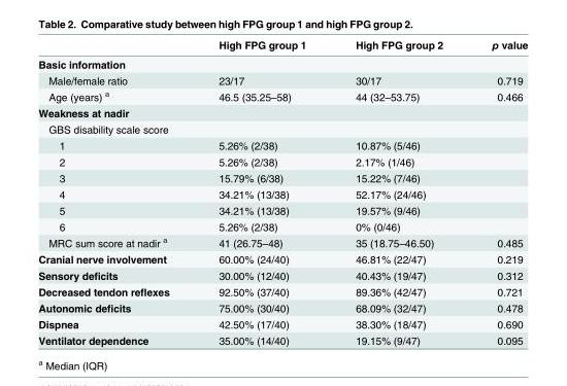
<table><thead><tr><td></td><td>High FPG group 1</td><td>High FPG group 2</td><td>p value</td></tr></thead><tbody><tr><td colspan="4">Basic information</td></tr><tr><td>Male/female ratio</td><td>23/17</td><td>30/17</td><td>0.719</td></tr><tr><td>Age (years) <sup>a</sup></td><td>46.5 (35.25–58)</td><td>44 (32–53.75)</td><td>0.466</td></tr><tr><td colspan="4">Weakness at nadir</td></tr><tr><td colspan="4">GBS disability scale score</td></tr><tr><td>1</td><td>5.26% (2/38)</td><td>10.87% (5/46)</td><td></td></tr><tr><td>2</td><td>5.26% (2/38)</td><td>2.17% (1/46)</td><td></td></tr><tr><td>3</td><td>15.79% (6/38)</td><td>15.22% (7/46)</td><td></td></tr><tr><td>4</td><td>34.21% (13/38)</td><td>52.17% (24/46)</td><td></td></tr><tr><td>5</td><td>34.21% (13/38)</td><td>19.57% (9/46)</td><td></td></tr><tr><td>6</td><td>5.26% (2/38)</td><td>0% (0/46)</td><td></td></tr><tr><td>MRC sum score at nadir <sup>a</sup></td><td>41 (26.75–48)</td><td>35 (18.75–46.50)</td><td>0.485</td></tr><tr><td>Cranial nerve involvement</td><td>60.00% (24/40)</td><td>46.81% (22/47)</td><td>0.219</td></tr><tr><td>Sensory deficits</td><td>30.00% (12/40)</td><td>40.43% (19/47)</td><td>0.312</td></tr><tr><td>Decreased tendon reflexes</td><td>92.50% (37/40)</td><td>89.36% (42/47)</td><td>0.721</td></tr><tr><td>Autonomic deficits</td><td>75.00% (30/40)</td><td>68.09% (32/47)</td><td>0.478</td></tr><tr><td>Dispnea</td><td>42.50% (17/40)</td><td>38.30% (18/47)</td><td>0.690</td></tr><tr><td>Ventilator dependence</td><td>35.00% (14/40)</td><td>19.15% (9/47)</td><td>0.095</td></tr></tbody></table>